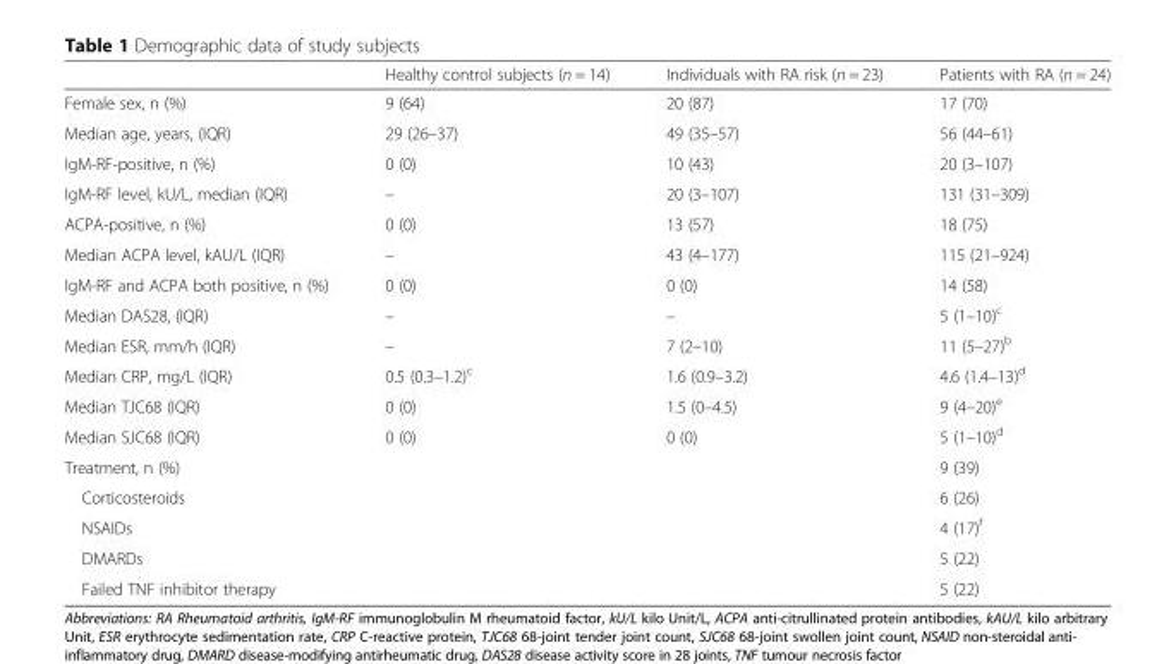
<table><thead><tr><td></td><td>Healthy control subjects (n = 14)</td><td>Individuals with RA risk (n = 23)</td><td>Patients with RA (n = 24)</td></tr></thead><tbody><tr><td>Female sex, n (%)</td><td>9 (64)</td><td>20 (87)</td><td>17 (70)</td></tr><tr><td>Median age, years, (IQR)</td><td>29 (26–37)</td><td>49 (35–57)</td><td>56 (44–61)</td></tr><tr><td>IgM-RF-positive, n (%)</td><td>0 (0)</td><td>10 (43)</td><td>20 (3–107)</td></tr><tr><td>IgM-RF level, kU/L, median (IQR)</td><td>–</td><td>20 (3–107)</td><td>131 (31–309)</td></tr><tr><td>ACPA-positive, n (%)</td><td>0 (0)</td><td>13 (57)</td><td>18 (75)</td></tr><tr><td>Median ACPA level, kAU/L (IQR)</td><td>–</td><td>43 (4–177)</td><td>115 (21–924)</td></tr><tr><td>IgM-RF and ACPA both positive, n (%)</td><td>0 (0)</td><td>0 (0)</td><td>14 (58)</td></tr><tr><td>Median DAS28, (IQR)</td><td>–</td><td>–</td><td>5 (1–10)<sup>c</sup></td></tr><tr><td>Median ESR, mm/h (IQR)</td><td>–</td><td>7 (2–10)</td><td>11 (5–27)<sup>b</sup></td></tr><tr><td>Median CRP, mg/L (IQR)</td><td>0.5 (0.3–1.2)<sup>c</sup></td><td>1.6 (0.9–3.2)</td><td>4.6 (1.4–13)<sup>d</sup></td></tr><tr><td>Median TJC68 (IQR)</td><td>0 (0)</td><td>1.5 (0–4.5)</td><td>9 (4–20)<sup>e</sup></td></tr><tr><td>Median SJC68 (IQR)</td><td>0 (0)</td><td>0 (0)</td><td>5 (1–10)<sup>d</sup></td></tr><tr><td>Treatment, n (%)</td><td></td><td></td><td>9 (39)</td></tr><tr><td>Corticosteroids</td><td></td><td></td><td>6 (26)</td></tr><tr><td>NSAIDs</td><td></td><td></td><td>4 (17)<sup>f</sup></td></tr><tr><td>DMARDs</td><td></td><td></td><td>5 (22)</td></tr><tr><td>Failed TNF inhibitor therapy</td><td></td><td></td><td>5 (22)</td></tr></tbody></table>